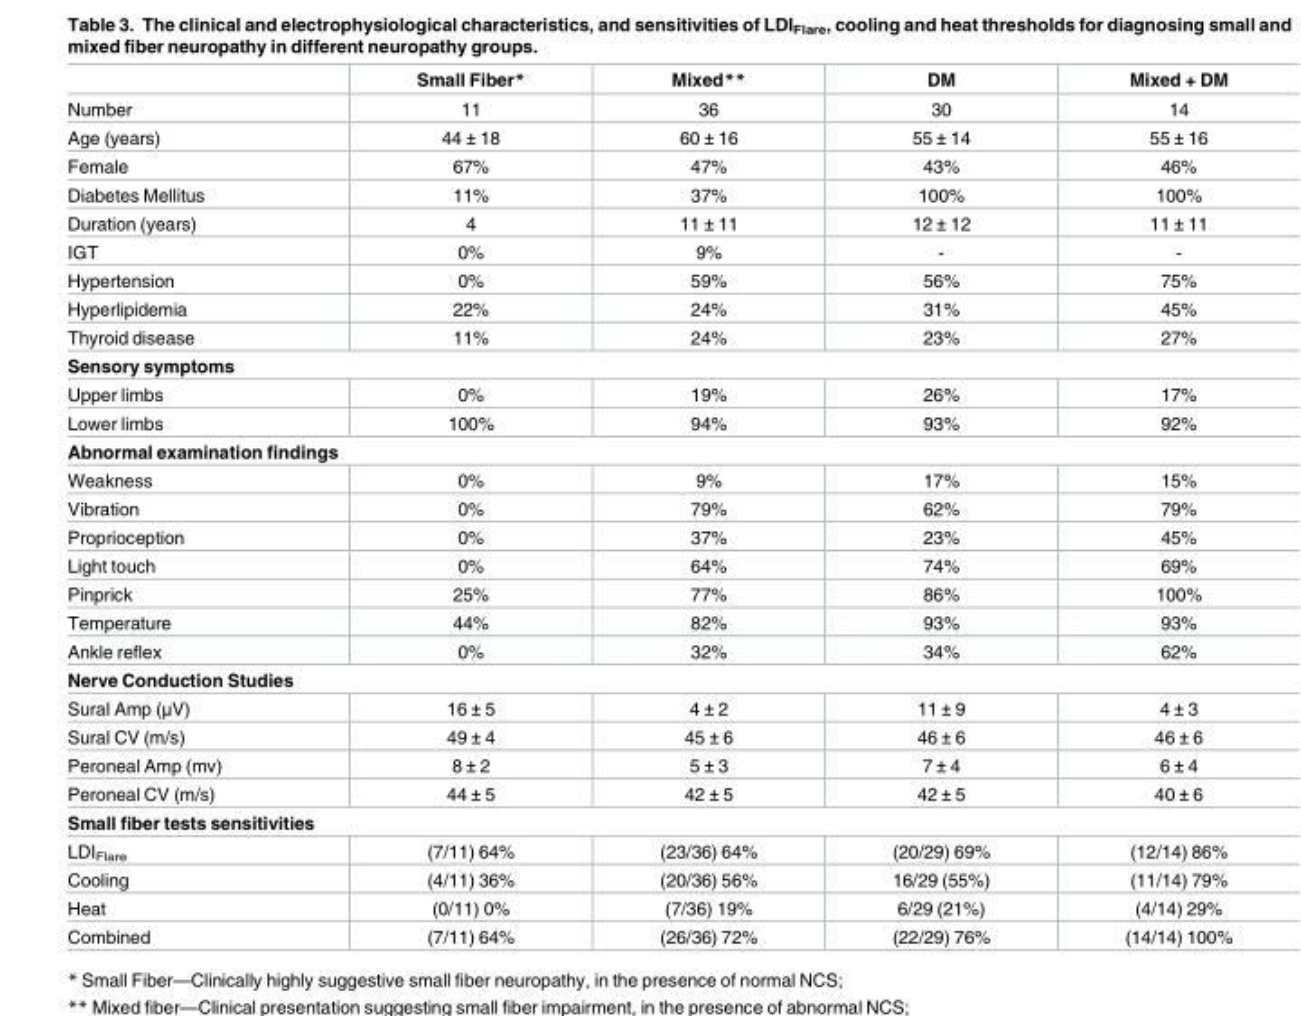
<table><thead><tr><td></td><td>Small Fiber*</td><td>Mixed**</td><td>DM</td><td>Mixed + DM</td></tr></thead><tbody><tr><td>Number</td><td>11</td><td>36</td><td>30</td><td>14</td></tr><tr><td>Age (years)</td><td>44 ± 18</td><td>60 ± 16</td><td>55 ± 14</td><td>55 ± 16</td></tr><tr><td>Female</td><td>67%</td><td>47%</td><td>43%</td><td>46%</td></tr><tr><td>Diabetes Mellitus</td><td>11%</td><td>37%</td><td>100%</td><td>100%</td></tr><tr><td>Duration (years)</td><td>4</td><td>11 ± 11</td><td>12 ± 12</td><td>11 ± 11</td></tr><tr><td>IGT</td><td>0%</td><td>9%</td><td>-</td><td>-</td></tr><tr><td>Hypertension</td><td>0%</td><td>59%</td><td>56%</td><td>75%</td></tr><tr><td>Hyperlipidemia</td><td>22%</td><td>24%</td><td>31%</td><td>45%</td></tr><tr><td>Thyroid disease</td><td>11%</td><td>24%</td><td>23%</td><td>27%</td></tr><tr><td colspan="5">Sensory symptoms</td></tr><tr><td>Upper limbs</td><td>0%</td><td>19%</td><td>26%</td><td>17%</td></tr><tr><td>Lower limbs</td><td>100%</td><td>94%</td><td>93%</td><td>92%</td></tr><tr><td colspan="5">Abnormal examination findings</td></tr><tr><td>Weakness</td><td>0%</td><td>9%</td><td>17%</td><td>15%</td></tr><tr><td>Vibration</td><td>0%</td><td>79%</td><td>62%</td><td>79%</td></tr><tr><td>Proprioception</td><td>0%</td><td>37%</td><td>23%</td><td>45%</td></tr><tr><td>Light touch</td><td>0%</td><td>64%</td><td>74%</td><td>69%</td></tr><tr><td>Pinprick</td><td>25%</td><td>77%</td><td>86%</td><td>100%</td></tr><tr><td>Temperature</td><td>44%</td><td>82%</td><td>93%</td><td>93%</td></tr><tr><td>Ankle reflex</td><td>0%</td><td>32%</td><td>34%</td><td>62%</td></tr><tr><td colspan="5">Nerve Conduction Studies</td></tr><tr><td>Sural Amp (μV)</td><td>16 ± 5</td><td>4 ± 2</td><td>11 ± 9</td><td>4 ± 3</td></tr><tr><td>Sural CV (m/s)</td><td>49 ± 4</td><td>45 ± 6</td><td>46 ± 6</td><td>46 ± 6</td></tr><tr><td>Peroneal Amp (mv)</td><td>8 ± 2</td><td>5 ± 3</td><td>7 ± 4</td><td>6 ± 4</td></tr><tr><td>Peroneal CV (m/s)</td><td>44 ± 5</td><td>42 ± 5</td><td>42 ± 5</td><td>40 ± 6</td></tr><tr><td colspan="5">Small fiber tests sensitivities</td></tr><tr><td>LDI<sub>Flare</sub></td><td>(7/11) 64%</td><td>(23/36) 64%</td><td>(20/29) 69%</td><td>(12/14) 86%</td></tr><tr><td>Cooling</td><td>(4/11) 36%</td><td>(20/36) 56%</td><td>16/29 (55%)</td><td>(11/14) 79%</td></tr><tr><td>Heat</td><td>(0/11) 0%</td><td>(7/36) 19%</td><td>6/29 (21%)</td><td>(4/14) 29%</td></tr><tr><td>Combined</td><td>(7/11) 64%</td><td>(26/36) 72%</td><td>(22/29) 76%</td><td>(14/14) 100%</td></tr></tbody></table>